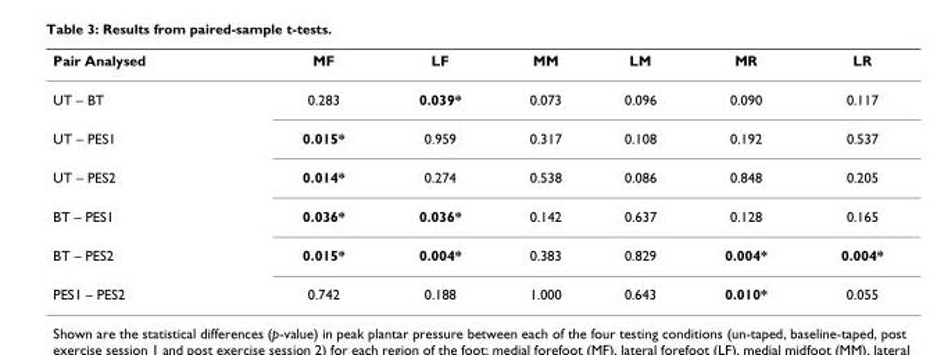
<table><thead><tr><td>Pair Analysed</td><td>MF</td><td>LF</td><td>MM</td><td>LM</td><td>MR</td><td>LR</td></tr></thead><tbody><tr><td>UT – BT</td><td>0.283</td><td>0.039*</td><td>0.073</td><td>0.096</td><td>0.090</td><td>0.117</td></tr><tr><td>UT – PES1</td><td>0.015*</td><td>0.959</td><td>0.317</td><td>0.108</td><td>0.192</td><td>0.537</td></tr><tr><td>UT – PES2</td><td>0.014*</td><td>0.274</td><td>0.538</td><td>0.086</td><td>0.848</td><td>0.205</td></tr><tr><td>BT – PES1</td><td>0.036*</td><td>0.036*</td><td>0.142</td><td>0.637</td><td>0.128</td><td>0.165</td></tr><tr><td>BT – PES2</td><td>0.015*</td><td>0.004*</td><td>0.383</td><td>0.829</td><td>0.004*</td><td>0.004*</td></tr><tr><td>PES1 – PES2</td><td>0.742</td><td>0.188</td><td>1.000</td><td>0.643</td><td>0.010*</td><td>0.055</td></tr></tbody></table>